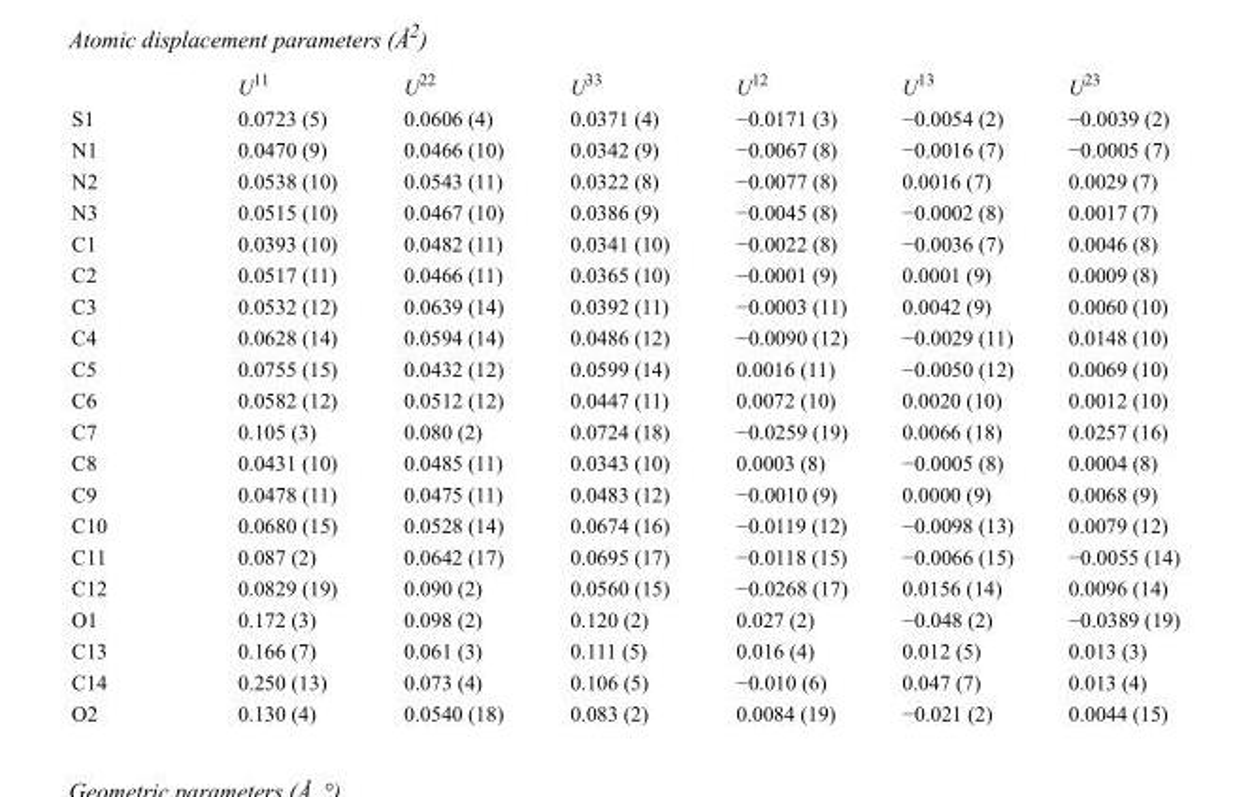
<table><thead><tr><td></td><td>U<sup>11</sup></td><td>U<sup>22</sup></td><td>U<sup>33</sup></td><td>U<sup>12</sup></td><td>U<sup>13</sup></td><td>U<sup>23</sup></td></tr></thead><tbody><tr><td>S1</td><td>0.0723 (5)</td><td>0.0606 (4)</td><td>0.0371 (4)</td><td>−0.0171 (3)</td><td>−0.0054 (2)</td><td>−0.0039 (2)</td></tr><tr><td>N1</td><td>0.0470 (9)</td><td>0.0466 (10)</td><td>0.0342 (9)</td><td>−0.0067 (8)</td><td>−0.0016 (7)</td><td>−0.0005 (7)</td></tr><tr><td>N2</td><td>0.0538 (10)</td><td>0.0543 (11)</td><td>0.0322 (8)</td><td>−0.0077 (8)</td><td>0.0016 (7)</td><td>0.0029 (7)</td></tr><tr><td>N3</td><td>0.0515 (10)</td><td>0.0467 (10)</td><td>0.0386 (9)</td><td>−0.0045 (8)</td><td>−0.0002 (8)</td><td>0.0017 (7)</td></tr><tr><td>C1</td><td>0.0393 (10)</td><td>0.0482 (11)</td><td>0.0341 (10)</td><td>−0.0022 (8)</td><td>−0.0036 (7)</td><td>0.0046 (8)</td></tr><tr><td>C2</td><td>0.0517 (11)</td><td>0.0466 (11)</td><td>0.0365 (10)</td><td>−0.0001 (9)</td><td>0.0001 (9)</td><td>0.0009 (8)</td></tr><tr><td>C3</td><td>0.0532 (12)</td><td>0.0639 (14)</td><td>0.0392 (11)</td><td>−0.0003 (11)</td><td>0.0042 (9)</td><td>0.0060 (10)</td></tr><tr><td>C4</td><td>0.0628 (14)</td><td>0.0594 (14)</td><td>0.0486 (12)</td><td>−0.0090 (12)</td><td>−0.0029 (11)</td><td>0.0148 (10)</td></tr><tr><td>C5</td><td>0.0755 (15)</td><td>0.0432 (12)</td><td>0.0599 (14)</td><td>0.0016 (11)</td><td>−0.0050 (12)</td><td>0.0069 (10)</td></tr><tr><td>C6</td><td>0.0582 (12)</td><td>0.0512 (12)</td><td>0.0447 (11)</td><td>0.0072 (10)</td><td>0.0020 (10)</td><td>0.0012 (10)</td></tr><tr><td>C7</td><td>0.105 (3)</td><td>0.080 (2)</td><td>0.0724 (18)</td><td>−0.0259 (19)</td><td>0.0066 (18)</td><td>0.0257 (16)</td></tr><tr><td>C8</td><td>0.0431 (10)</td><td>0.0485 (11)</td><td>0.0343 (10)</td><td>0.0003 (8)</td><td>−0.0005 (8)</td><td>0.0004 (8)</td></tr><tr><td>C9</td><td>0.0478 (11)</td><td>0.0475 (11)</td><td>0.0483 (12)</td><td>−0.0010 (9)</td><td>0.0000 (9)</td><td>0.0068 (9)</td></tr><tr><td>C10</td><td>0.0680 (15)</td><td>0.0528 (14)</td><td>0.0674 (16)</td><td>−0.0119 (12)</td><td>−0.0098 (13)</td><td>0.0079 (12)</td></tr><tr><td>C11</td><td>0.087 (2)</td><td>0.0642 (17)</td><td>0.0695 (17)</td><td>−0.0118 (15)</td><td>−0.0066 (15)</td><td>−0.0055 (14)</td></tr><tr><td>C12</td><td>0.0829 (19)</td><td>0.090 (2)</td><td>0.0560 (15)</td><td>−0.0268 (17)</td><td>0.0156 (14)</td><td>0.0096 (14)</td></tr><tr><td>O1</td><td>0.172 (3)</td><td>0.098 (2)</td><td>0.120 (2)</td><td>0.027 (2)</td><td>−0.048 (2)</td><td>−0.0389 (19)</td></tr><tr><td>C13</td><td>0.166 (7)</td><td>0.061 (3)</td><td>0.111 (5)</td><td>0.016 (4)</td><td>0.012 (5)</td><td>0.013 (3)</td></tr><tr><td>C14</td><td>0.250 (13)</td><td>0.073 (4)</td><td>0.106 (5)</td><td>−0.010 (6)</td><td>0.047 (7)</td><td>0.013 (4)</td></tr><tr><td>O2</td><td>0.130 (4)</td><td>0.0540 (18)</td><td>0.083 (2)</td><td>0.0084 (19)</td><td>−0.021 (2)</td><td>0.0044 (15)</td></tr></tbody></table>